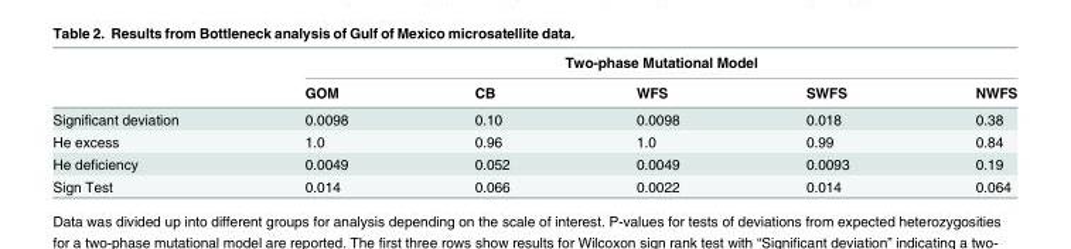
<table><thead><tr><td rowspan="2"></td><td colspan="5">Two-phase Mutational Model</td></tr><tr><td>GOM</td><td>CB</td><td>WFS</td><td>SWFS</td><td>NWFS</td></tr></thead><tbody><tr><td>Significant deviation</td><td>0.0098</td><td>0.10</td><td>0.0098</td><td>0.018</td><td>0.38</td></tr><tr><td>He excess</td><td>1.0</td><td>0.96</td><td>1.0</td><td>0.99</td><td>0.84</td></tr><tr><td>He deficiency</td><td>0.0049</td><td>0.052</td><td>0.0049</td><td>0.0093</td><td>0.19</td></tr><tr><td>Sign Test</td><td>0.014</td><td>0.066</td><td>0.0022</td><td>0.014</td><td>0.064</td></tr></tbody></table>